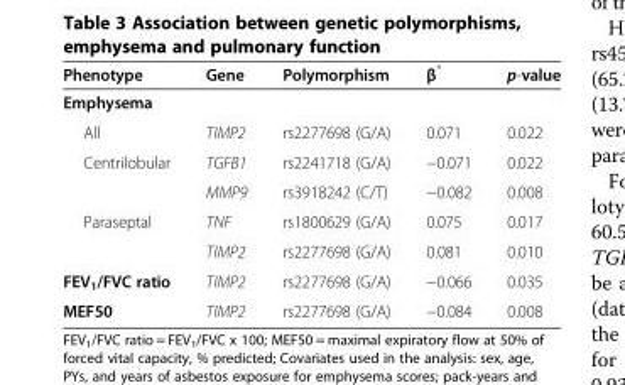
<table><thead><tr><td>Phenotype</td><td>Gene</td><td>Polymorphism</td><td>β*</td><td>p-value</td></tr></thead><tbody><tr><td colspan="5">Emphysema</td></tr><tr><td>All</td><td>TIMP2</td><td>rs2277698 (G/A)</td><td>0.071</td><td>0.022</td></tr><tr><td rowspan="2">Centrilobular</td><td>TGFB1</td><td>rs2241718 (G/A)</td><td>−0.071</td><td>0.022</td></tr><tr><td>MMP9</td><td>rs3918242 (C/T)</td><td>−0.082</td><td>0.008</td></tr><tr><td rowspan="2">Paraseptal</td><td>TNF</td><td>rs1800629 (G/A)</td><td>0.075</td><td>0.017</td></tr><tr><td>TIMP2</td><td>rs2277698 (G/A)</td><td>0.081</td><td>0.010</td></tr><tr><td>FEV<sub>1</sub>/FVC ratio</td><td>TIMP2</td><td>rs2277698 (G/A)</td><td>−0.066</td><td>0.035</td></tr><tr><td>MEF50</td><td>TIMP2</td><td>rs2277698 (G/A)</td><td>−0.084</td><td>0.008</td></tr></tbody></table>